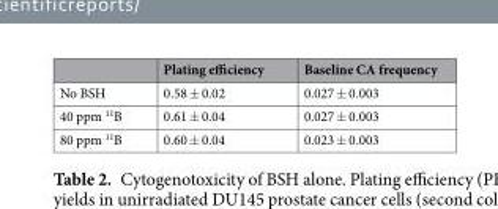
<table><thead><tr><td></td><td>Plating efficiency</td><td>Baseline CA frequency</td></tr></thead><tbody><tr><td>No BSH</td><td>0.58 ± 0.02</td><td>0.027 ± 0.003</td></tr><tr><td>40 ppm <sup>11</sup>B</td><td>0.61 ± 0.04</td><td>0.027 ± 0.003</td></tr><tr><td>80 ppm <sup>11</sup>B</td><td>0.60 ± 0.04</td><td>0.023 ± 0.003</td></tr></tbody></table>